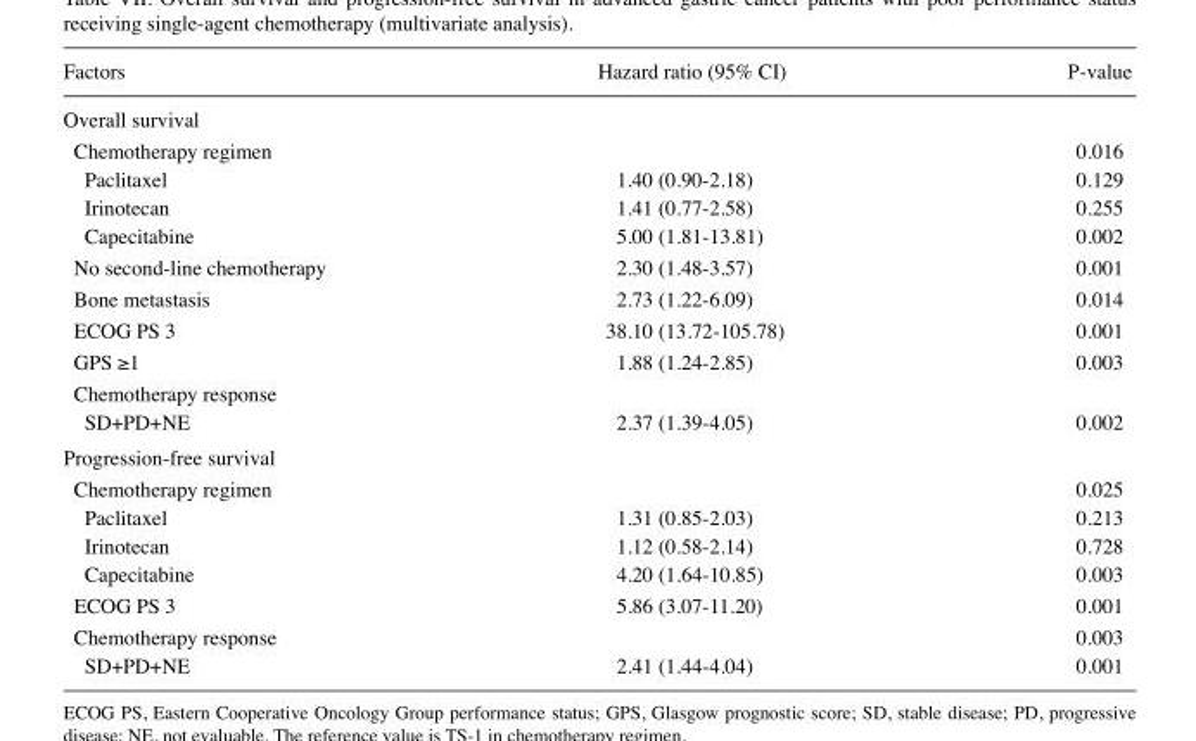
<table><thead><tr><td>Factors</td><td>Hazard ratio (95% CI)</td><td>P-value</td></tr></thead><tbody><tr><td colspan="3">Overall survival</td></tr><tr><td>Chemotherapy regimen</td><td></td><td>0.016</td></tr><tr><td>Paclitaxel</td><td>1.40 (0.90-2.18)</td><td>0.129</td></tr><tr><td>Irinotecan</td><td>1.41 (0.77-2.58)</td><td>0.255</td></tr><tr><td>Capecitabine</td><td>5.00 (1.81-13.81)</td><td>0.002</td></tr><tr><td>No second-line chemotherapy</td><td>2.30 (1.48-3.57)</td><td>0.001</td></tr><tr><td>Bone metastasis</td><td>2.73 (1.22-6.09)</td><td>0.014</td></tr><tr><td>ECOG PS 3</td><td>38.10 (13.72-105.78)</td><td>0.001</td></tr><tr><td>GPS ≥1</td><td>1.88 (1.24-2.85)</td><td>0.003</td></tr><tr><td colspan="3">Chemotherapy response</td></tr><tr><td>SD+PD+NE</td><td>2.37 (1.39-4.05)</td><td>0.002</td></tr><tr><td colspan="3">Progression-free survival</td></tr><tr><td>Chemotherapy regimen</td><td></td><td>0.025</td></tr><tr><td>Paclitaxel</td><td>1.31 (0.85-2.03)</td><td>0.213</td></tr><tr><td>Irinotecan</td><td>1.12 (0.58-2.14)</td><td>0.728</td></tr><tr><td>Capecitabine</td><td>4.20 (1.64-10.85)</td><td>0.003</td></tr><tr><td>ECOG PS 3</td><td>5.86 (3.07-11.20)</td><td>0.001</td></tr><tr><td>Chemotherapy response</td><td></td><td>0.003</td></tr><tr><td>SD+PD+NE</td><td>2.41 (1.44-4.04)</td><td>0.001</td></tr></tbody></table>